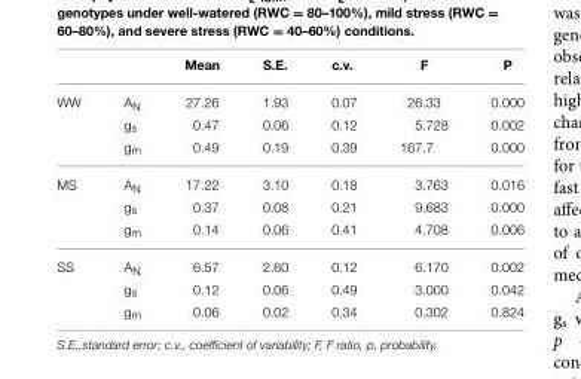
<table><thead><tr><td></td><td></td><td>Mean</td><td>S.E.</td><td>c.v.</td><td>F</td><td>P</td></tr></thead><tbody><tr><td rowspan="3">WW</td><td>A<sub>N</sub></td><td>27.26</td><td>1.93</td><td>0.07</td><td>26.33</td><td>0.000</td></tr><tr><td>gs</td><td>0.47</td><td>0.06</td><td>0.12</td><td>5.728</td><td>0.002</td></tr><tr><td>gm</td><td>0.49</td><td>0.19</td><td>0.39</td><td>167.7</td><td>0.000</td></tr><tr><td rowspan="3">MS</td><td>A<sub>N</sub></td><td>17.22</td><td>3.10</td><td>0.18</td><td>3.763</td><td>0.016</td></tr><tr><td>gs</td><td>0.37</td><td>0.08</td><td>0.21</td><td>9.683</td><td>0.000</td></tr><tr><td>gm</td><td>0.14</td><td>0.06</td><td>0.41</td><td>4.708</td><td>0.006</td></tr><tr><td rowspan="3">SS</td><td>A<sub>N</sub></td><td>6.57</td><td>2.60</td><td>0.12</td><td>6.170</td><td>0.002</td></tr><tr><td>gs</td><td>0.12</td><td>0.06</td><td>0.49</td><td>3.000</td><td>0.042</td></tr><tr><td>gm</td><td>0.06</td><td>0.02</td><td>0.34</td><td>0.302</td><td>0.824</td></tr></tbody></table>